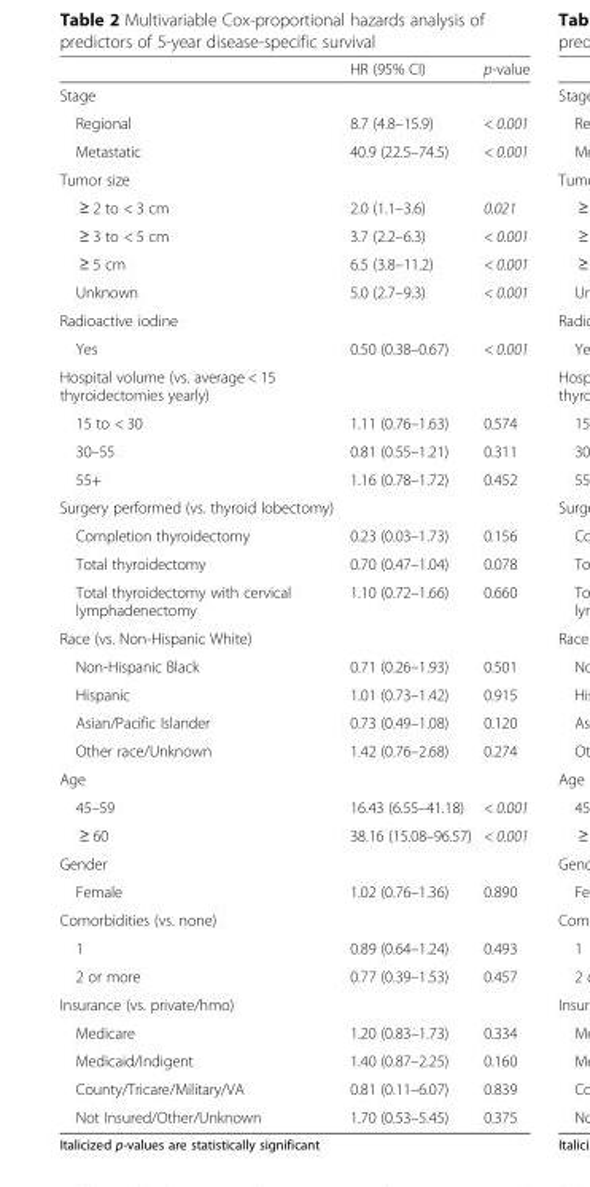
<table><thead><tr><td></td><td>HR (95% CI)</td><td>p-value</td></tr></thead><tbody><tr><td colspan="3">Stage</td></tr><tr><td>Regional</td><td>8.7 (4.8–15.9)</td><td>&lt; 0.001</td></tr><tr><td>Metastatic</td><td>40.9 (22.5–74.5)</td><td>&lt; 0.001</td></tr><tr><td colspan="3">Tumor size</td></tr><tr><td>≥ 2 to &lt; 3 cm</td><td>2.0 (1.1–3.6)</td><td>0.021</td></tr><tr><td>≥ 3 to &lt; 5 cm</td><td>3.7 (2.2–6.3)</td><td>&lt; 0.001</td></tr><tr><td>≥ 5 cm</td><td>6.5 (3.8–11.2)</td><td>&lt; 0.001</td></tr><tr><td>Unknown</td><td>5.0 (2.7–9.3)</td><td>&lt; 0.001</td></tr><tr><td colspan="3">Radioactive iodine</td></tr><tr><td>Yes</td><td>0.50 (0.38–0.67)</td><td>&lt; 0.001</td></tr><tr><td colspan="3">Hospital volume (vs. average &lt; 15 thyroidectomies yearly)</td></tr><tr><td>15 to &lt; 30</td><td>1.11 (0.76–1.63)</td><td>0.574</td></tr><tr><td>30–55</td><td>0.81 (0.55–1.21)</td><td>0.311</td></tr><tr><td>55+</td><td>1.16 (0.78–1.72)</td><td>0.452</td></tr><tr><td colspan="3">Surgery performed (vs. thyroid lobectomy)</td></tr><tr><td>Completion thyroidectomy</td><td>0.23 (0.03–1.73)</td><td>0.156</td></tr><tr><td>Total thyroidectomy</td><td>0.70 (0.47–1.04)</td><td>0.078</td></tr><tr><td>Total thyroidectomy with cervical lymphadenectomy</td><td>1.10 (0.72–1.66)</td><td>0.660</td></tr><tr><td colspan="3">Race (vs. Non-Hispanic White)</td></tr><tr><td>Non-Hispanic Black</td><td>0.71 (0.26–1.93)</td><td>0.501</td></tr><tr><td>Hispanic</td><td>1.01 (0.73–1.42)</td><td>0.915</td></tr><tr><td>Asian/Pacific Islander</td><td>0.73 (0.49–1.08)</td><td>0.120</td></tr><tr><td>Other race/Unknown</td><td>1.42 (0.76–2.68)</td><td>0.274</td></tr><tr><td colspan="3">Age</td></tr><tr><td>45–59</td><td>16.43 (6.55–41.18)</td><td>&lt; 0.001</td></tr><tr><td>≥ 60</td><td>38.16 (15.08–96.57)</td><td>&lt; 0.001</td></tr><tr><td colspan="3">Gender</td></tr><tr><td>Female</td><td>1.02 (0.76–1.36)</td><td>0.890</td></tr><tr><td colspan="3">Comorbidities (vs. none)</td></tr><tr><td>1</td><td>0.89 (0.64–1.24)</td><td>0.493</td></tr><tr><td>2 or more</td><td>0.77 (0.39–1.53)</td><td>0.457</td></tr><tr><td colspan="3">Insurance (vs. private/hmo)</td></tr><tr><td>Medicare</td><td>1.20 (0.83–1.73)</td><td>0.334</td></tr><tr><td>Medicaid/Indigent</td><td>1.40 (0.87–2.25)</td><td>0.160</td></tr><tr><td>County/Tricare/Military/VA</td><td>0.81 (0.11–6.07)</td><td>0.839</td></tr><tr><td>Not Insured/Other/Unknown</td><td>1.70 (0.53–5.45)</td><td>0.375</td></tr></tbody></table>